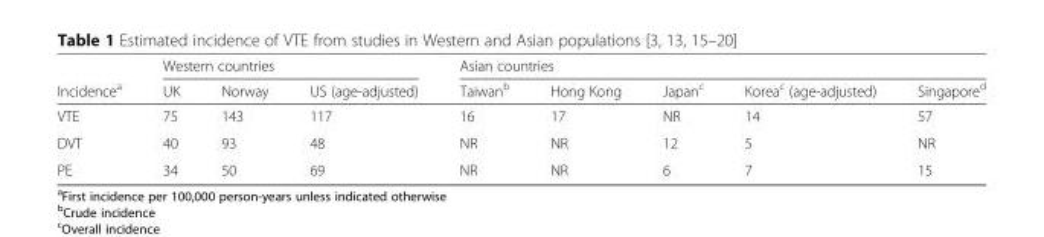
<table><thead><tr><td rowspan="2">Incidence<sup>a</sup></td><td colspan="3">Western countries</td><td colspan="5">Asian countries</td></tr><tr><td>UK</td><td>Norway</td><td>US (age-adjusted)</td><td>Taiwan<sup>b</sup></td><td>Hong Kong</td><td>Japan<sup>c</sup></td><td>Korea<sup>c</sup> (age-adjusted)</td><td>Singapore<sup>d</sup></td></tr></thead><tbody><tr><td>VTE</td><td>75</td><td>143</td><td>117</td><td>16</td><td>17</td><td>NR</td><td>14</td><td>57</td></tr><tr><td>DVT</td><td>40</td><td>93</td><td>48</td><td>NR</td><td>NR</td><td>12</td><td>5</td><td>NR</td></tr><tr><td>PE</td><td>34</td><td>50</td><td>69</td><td>NR</td><td>NR</td><td>6</td><td>7</td><td>15</td></tr></tbody></table>